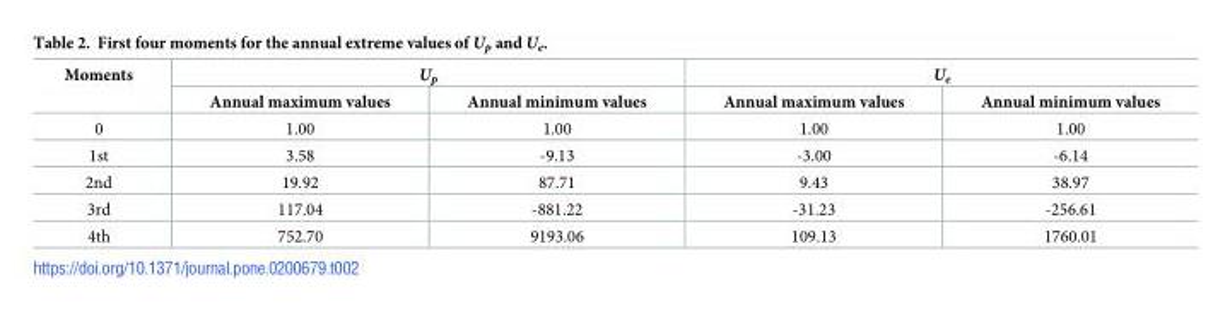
<table><thead><tr><td rowspan="2">Moments</td><td colspan="2">U<sub>p</sub></td><td colspan="2">U<sub>e</sub></td></tr><tr><td>Annual maximum values</td><td>Annual minimum values</td><td>Annual maximum values</td><td>Annual minimum values</td></tr></thead><tbody><tr><td>0</td><td>1.00</td><td>1.00</td><td>1.00</td><td>1.00</td></tr><tr><td>1st</td><td>3.58</td><td>-9.13</td><td>-3.00</td><td>-6.14</td></tr><tr><td>2nd</td><td>19.92</td><td>87.71</td><td>9.43</td><td>38.97</td></tr><tr><td>3rd</td><td>117.04</td><td>-881.22</td><td>-31.23</td><td>-256.61</td></tr><tr><td>4th</td><td>752.70</td><td>9193.06</td><td>109.13</td><td>1760.01</td></tr></tbody></table>